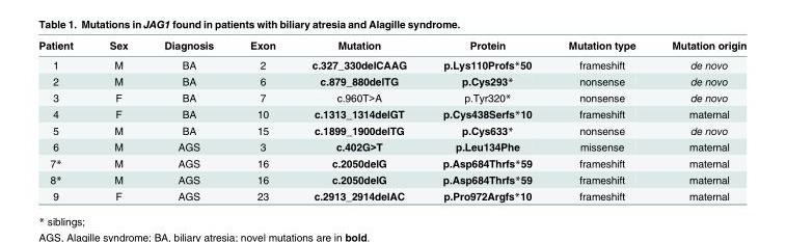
<table><thead><tr><td>Patient</td><td>Sex</td><td>Diagnosis</td><td>Exon</td><td>Mutation</td><td>Protein</td><td>Mutation type</td><td>Mutation origin</td></tr></thead><tbody><tr><td>1</td><td>M</td><td>BA</td><td>2</td><td>c.327_330delCAAG</td><td>p.Lys110Profs*50</td><td>frameshift</td><td>de novo</td></tr><tr><td>2</td><td>M</td><td>BA</td><td>6</td><td>c.879_880delTG</td><td>p.Cys293*</td><td>nonsense</td><td>de novo</td></tr><tr><td>3</td><td>F</td><td>BA</td><td>7</td><td>c.960T&gt;A</td><td>p.Tyr320*</td><td>nonsense</td><td>de novo</td></tr><tr><td>4</td><td>F</td><td>BA</td><td>10</td><td>c.1313_1314delGT</td><td>p.Cys438Serfs*10</td><td>frameshift</td><td>maternal</td></tr><tr><td>5</td><td>M</td><td>BA</td><td>15</td><td>c.1899_1900delTG</td><td>p.Cys633*</td><td>nonsense</td><td>de novo</td></tr><tr><td>6</td><td>M</td><td>AGS</td><td>3</td><td>c.402G&gt;T</td><td>p.Leu134Phe</td><td>missense</td><td>maternal</td></tr><tr><td>7*</td><td>M</td><td>AGS</td><td>16</td><td>c.2050delG</td><td>p.Asp684Thrfs*59</td><td>frameshift</td><td>maternal</td></tr><tr><td>8*</td><td>M</td><td>AGS</td><td>16</td><td>c.2050delG</td><td>p.Asp684Thrfs*59</td><td>frameshift</td><td>maternal</td></tr><tr><td>9</td><td>F</td><td>AGS</td><td>23</td><td>c.2913_2914delAC</td><td>p.Pro972Argfs*10</td><td>frameshift</td><td>maternal</td></tr></tbody></table>